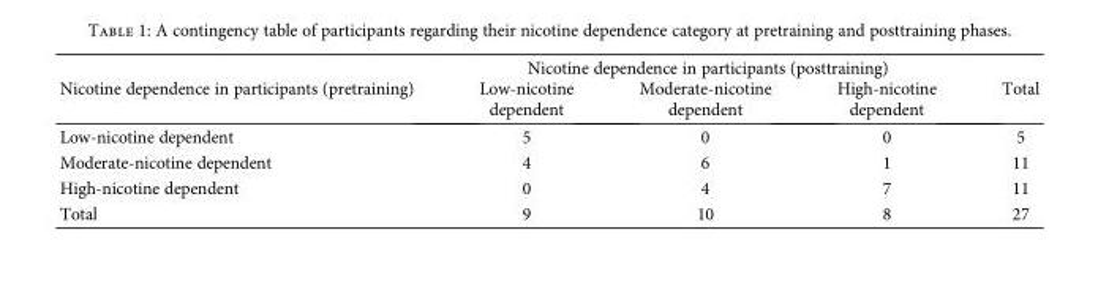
<table><thead><tr><td rowspan="2">Nicotine dependence in participants (pretraining)</td><td colspan="3">Nicotine dependence in participants (posttraining)</td><td rowspan="2">Total</td></tr><tr><td>Low-nicotine dependent</td><td>Moderate-nicotine dependent</td><td>High-nicotine dependent</td></tr></thead><tbody><tr><td>Low-nicotine dependent</td><td>5</td><td>0</td><td>0</td><td>5</td></tr><tr><td>Moderate-nicotine dependent</td><td>4</td><td>6</td><td>1</td><td>11</td></tr><tr><td>High-nicotine dependent</td><td>0</td><td>4</td><td>7</td><td>11</td></tr><tr><td>Total</td><td>9</td><td>10</td><td>8</td><td>27</td></tr></tbody></table>